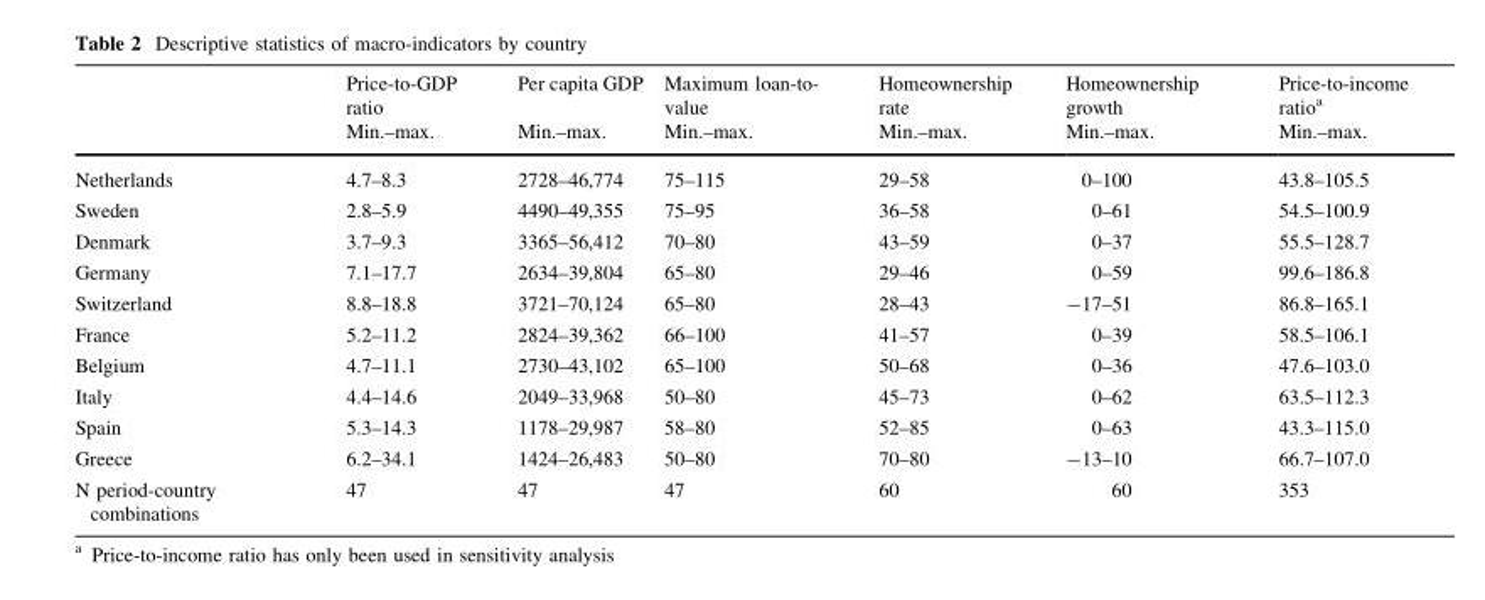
<table><thead><tr><td rowspan="2"></td><td rowspan="2">Price-to-GDP ratio Min.–max.</td><td rowspan="2">Per capita GDP Min.–max.</td><td rowspan="2">Maximum loan-to- value Min.–max.</td><td rowspan="2">Homeownership rate Min.–max.</td><td rowspan="2">Homeownership growth Min.–max.</td><td rowspan="2">Price-to-income ratio<sup>a</sup> Min.–max.</td></tr><tr></tr></thead><tbody><tr><td>Netherlands</td><td>4.7–8.3</td><td>2728–46,774</td><td>75–115</td><td>29–58</td><td>0–100</td><td>43.8–105.5</td></tr><tr><td>Sweden</td><td>2.8–5.9</td><td>4490–49,355</td><td>75–95</td><td>36–58</td><td>0–61</td><td>54.5–100.9</td></tr><tr><td>Denmark</td><td>3.7–9.3</td><td>3365–56,412</td><td>70–80</td><td>43–59</td><td>0–37</td><td>55.5–128.7</td></tr><tr><td>Germany</td><td>7.1–17.7</td><td>2634–39,804</td><td>65–80</td><td>29–46</td><td>0–59</td><td>99.6–186.8</td></tr><tr><td>Switzerland</td><td>8.8–18.8</td><td>3721–70,124</td><td>65–80</td><td>28–43</td><td>-17–51</td><td>86.8–165.1</td></tr><tr><td>France</td><td>5.2–11.2</td><td>2824–39,362</td><td>66–100</td><td>41–57</td><td>0–39</td><td>58.5–106.1</td></tr><tr><td>Belgium</td><td>4.7–11.1</td><td>2730–43,102</td><td>65–100</td><td>50–68</td><td>0–36</td><td>47.6–103.0</td></tr><tr><td>Italy</td><td>4.4–14.6</td><td>2049–33,968</td><td>50–80</td><td>45–73</td><td>0–62</td><td>63.5–112.3</td></tr><tr><td>Spain</td><td>5.3–14.3</td><td>1178–29,987</td><td>58–80</td><td>52–85</td><td>0–63</td><td>43.3–115.0</td></tr><tr><td>Greece</td><td>6.2–34.1</td><td>1424–26,483</td><td>50–80</td><td>70–80</td><td>-13–10</td><td>66.7–107.0</td></tr><tr><td>N period-country combinations</td><td>47</td><td>47</td><td>47</td><td>60</td><td>60</td><td>353</td></tr></tbody></table>